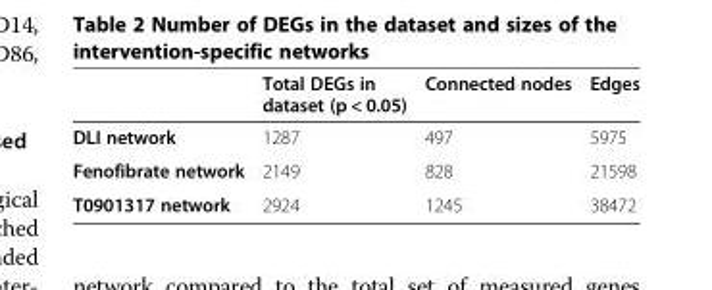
<table><thead><tr><td></td><td>Total DEGs in dataset (p &lt; 0.05)</td><td>Connected nodes</td><td>Edges</td></tr></thead><tbody><tr><td>DLI network</td><td>1287</td><td>497</td><td>5975</td></tr><tr><td>Fenofibrate network</td><td>2149</td><td>828</td><td>21598</td></tr><tr><td>T0901317 network</td><td>2924</td><td>1245</td><td>38472</td></tr></tbody></table>